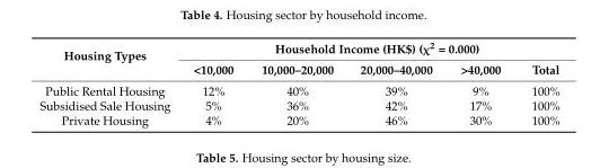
<table><thead><tr><td rowspan="2">Housing Types</td><td colspan="5">Household Income (HK$) (χ<sup>2</sup> = 0.000)</td></tr><tr><td>&lt;10,000</td><td>10,000–20,000</td><td>20,000–40,000</td><td>&gt;40,000</td><td>Total</td></tr></thead><tbody><tr><td>Public Rental Housing</td><td>12%</td><td>40%</td><td>39%</td><td>9%</td><td>100%</td></tr><tr><td>Subsidised Sale Housing</td><td>5%</td><td>36%</td><td>42%</td><td>17%</td><td>100%</td></tr><tr><td>Private Housing</td><td>4%</td><td>20%</td><td>46%</td><td>30%</td><td>100%</td></tr></tbody></table>